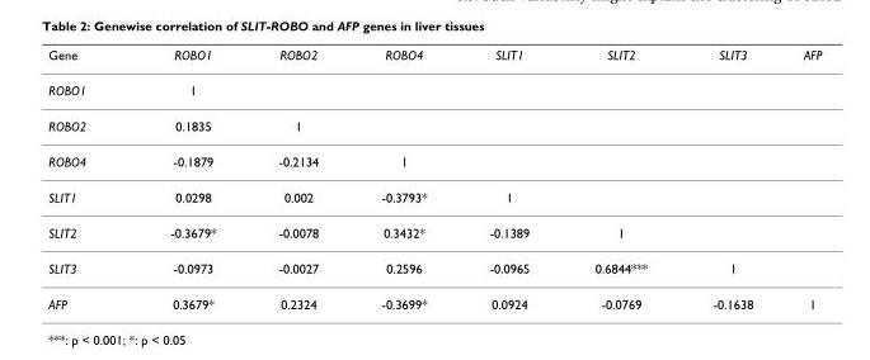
<table><thead><tr><td>Gene</td><td>ROBO1</td><td>ROBO2</td><td>ROBO4</td><td>SLIT1</td><td>SLIT2</td><td>SLIT3</td><td>AFP</td></tr></thead><tbody><tr><td>ROBO1</td><td>1</td><td></td><td></td><td></td><td></td><td></td><td></td></tr><tr><td>ROBO2</td><td>0.1835</td><td>1</td><td></td><td></td><td></td><td></td><td></td></tr><tr><td>ROBO4</td><td>-0.1879</td><td>-0.2134</td><td>1</td><td></td><td></td><td></td><td></td></tr><tr><td>SLIT1</td><td>0.0298</td><td>0.002</td><td>-0.3793*</td><td>1</td><td></td><td></td><td></td></tr><tr><td>SLIT2</td><td>-0.3679*</td><td>-0.0078</td><td>0.3432*</td><td>-0.1389</td><td>1</td><td></td><td></td></tr><tr><td>SLIT3</td><td>-0.0973</td><td>-0.0027</td><td>0.2596</td><td>-0.0965</td><td>0.6844***</td><td>1</td><td></td></tr><tr><td>AFP</td><td>0.3679*</td><td>0.2324</td><td>-0.3699*</td><td>0.0924</td><td>-0.0769</td><td>-0.1638</td><td>1</td></tr></tbody></table>